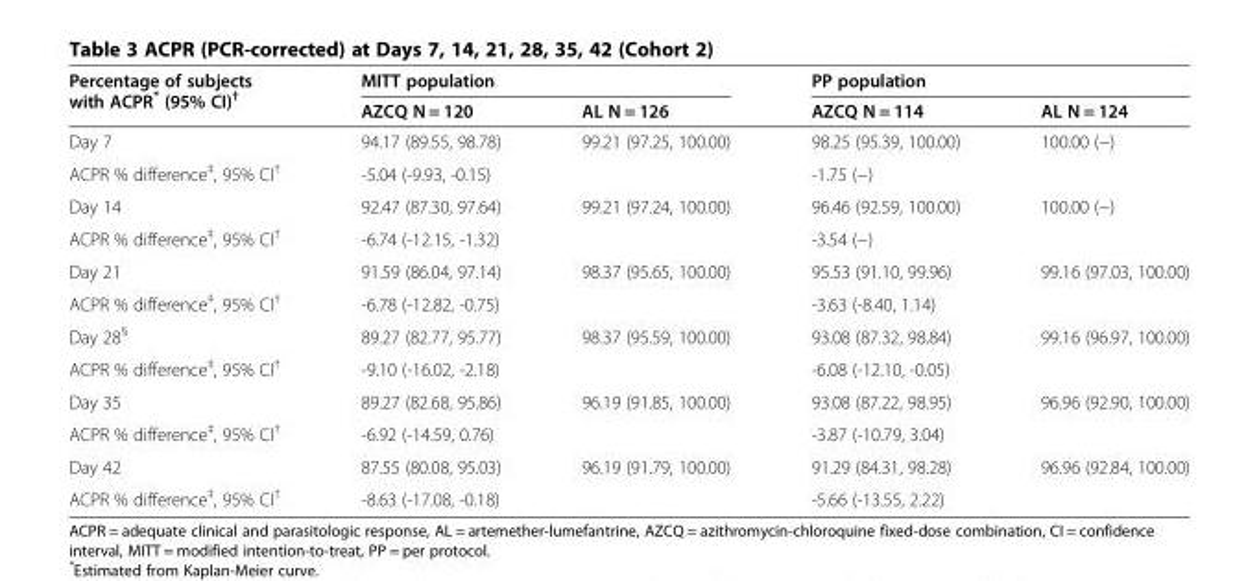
<table><thead><tr><td rowspan="2">Percentage of subjects with ACPR* (95% CI)<sup>†</sup></td><td colspan="2">MITT population</td><td colspan="2">PP population</td></tr><tr><td>AZCQ N = 120</td><td>AL N = 126</td><td>AZCQ N = 114</td><td>AL N = 124</td></tr></thead><tbody><tr><td>Day 7</td><td>94.17 (89.55, 98.78)</td><td>99.21 (97.25, 100.00)</td><td>98.25 (95.39, 100.00)</td><td>100.00 (−)</td></tr><tr><td>ACPR % difference<sup>‡</sup>, 95% CI<sup>†</sup></td><td colspan="2">-5.04 (-9.93, -0.15)</td><td colspan="2">-1.75 (−)</td></tr><tr><td>Day 14</td><td>92.47 (87.30, 97.64)</td><td>99.21 (97.24, 100.00)</td><td>96.46 (92.59, 100.00)</td><td>100.00 (−)</td></tr><tr><td>ACPR % difference<sup>‡</sup>, 95% CI<sup>†</sup></td><td colspan="2">-6.74 (-12.15, -1.32)</td><td colspan="2">-3.54 (−)</td></tr><tr><td>Day 21</td><td>91.59 (86.04, 97.14)</td><td>98.37 (95.65, 100.00)</td><td>95.53 (91.10, 99.96)</td><td>99.16 (97.03, 100.00)</td></tr><tr><td>ACPR % difference<sup>‡</sup>, 95% CI<sup>†</sup></td><td colspan="2">-6.78 (-12.82, -0.75)</td><td colspan="2">-3.63 (-8.40, 1.14)</td></tr><tr><td>Day 28<sup>§</sup></td><td>89.27 (82.77, 95.77)</td><td>98.37 (95.59, 100.00)</td><td>93.08 (87.32, 98.84)</td><td>99.16 (96.97, 100.00)</td></tr><tr><td>ACPR % difference<sup>‡</sup>, 95% CI<sup>†</sup></td><td colspan="2">-9.10 (-16.02, -2.18)</td><td colspan="2">-6.08 (-12.10, -0.05)</td></tr><tr><td>Day 35</td><td>89.27 (82.68, 95.86)</td><td>96.19 (91.85, 100.00)</td><td>93.08 (87.22, 98.95)</td><td>96.96 (92.90, 100.00)</td></tr><tr><td>ACPR % difference<sup>‡</sup>, 95% CI<sup>†</sup></td><td colspan="2">-6.92 (-14.59, 0.76)</td><td colspan="2">-3.87 (-10.79, 3.04)</td></tr><tr><td>Day 42</td><td>87.55 (80.08, 95.03)</td><td>96.19 (91.79, 100.00)</td><td>91.29 (84.31, 98.28)</td><td>96.96 (92.84, 100.00)</td></tr><tr><td>ACPR % difference<sup>‡</sup>, 95% CI<sup>†</sup></td><td colspan="2">-8.63 (-17.08, -0.18)</td><td colspan="2">-5.66 (-13.55, 2.22)</td></tr></tbody></table>